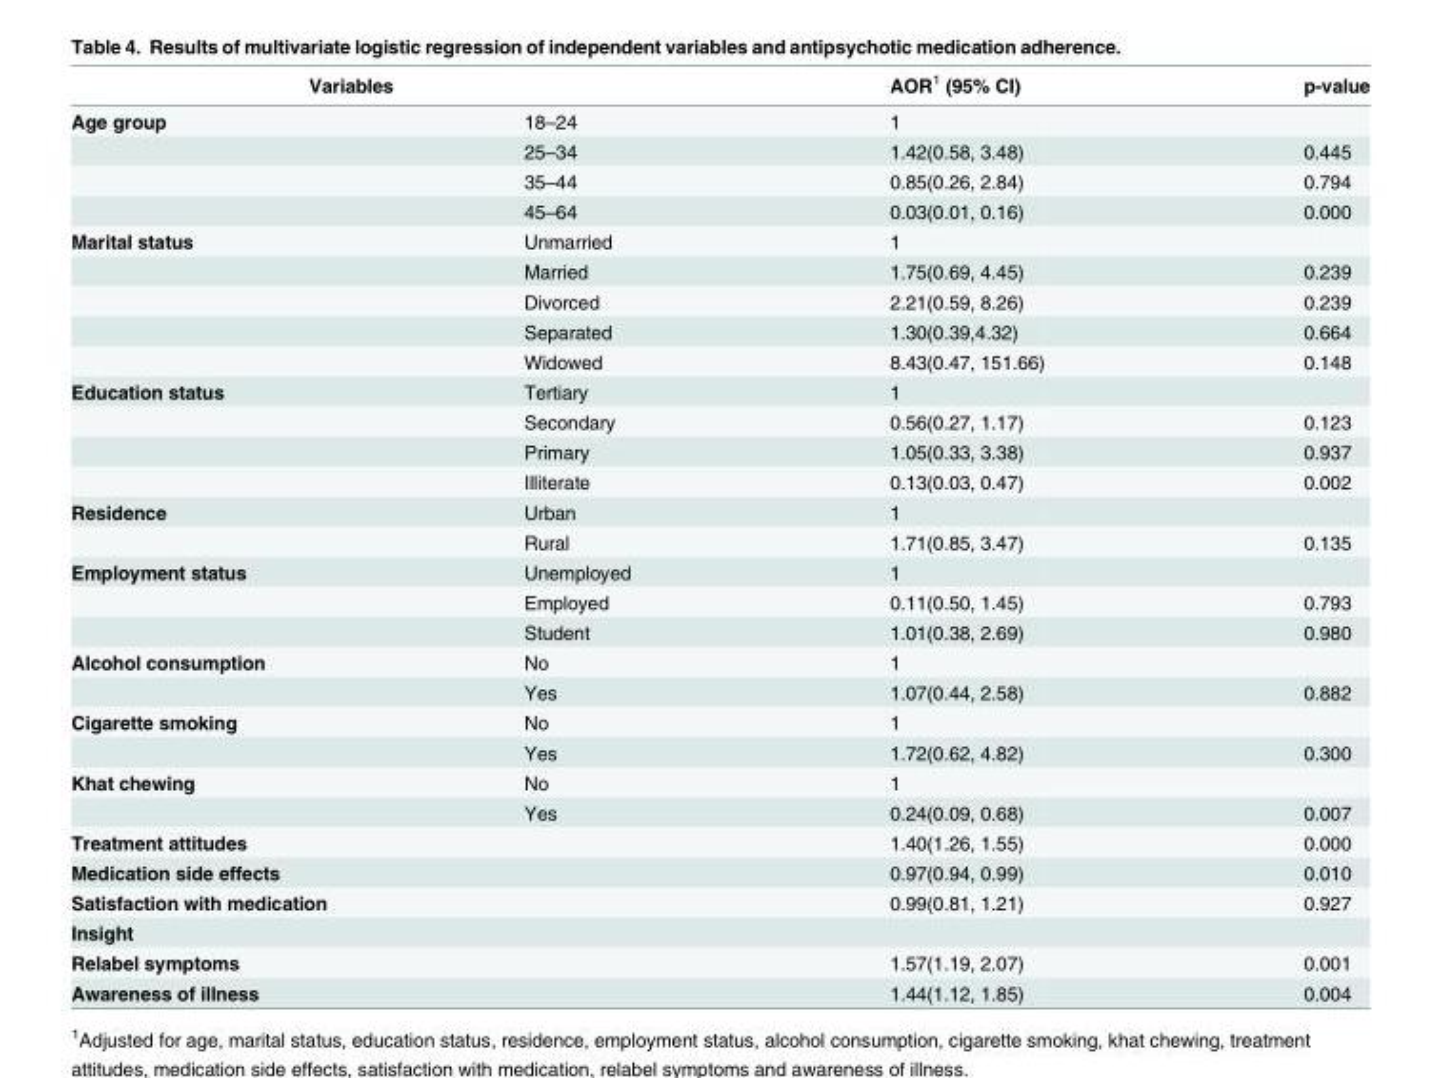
<table><thead><tr><td colspan="2">Variables</td><td rowspan="2">AOR<sup>1</sup> (95% CI) 1</td><td rowspan="2">p-value</td></tr><tr><td>Age group</td><td>18–24</td></tr></thead><tbody><tr><td></td><td>25–34</td><td>1.42(0.58, 3.48)</td><td>0.445</td></tr><tr><td></td><td>35–44</td><td>0.85(0.26, 2.84)</td><td>0.794</td></tr><tr><td></td><td>45–64</td><td>0.03(0.01, 0.16)</td><td>0.000</td></tr><tr><td rowspan="5">Marital status</td><td>Unmarried</td><td>1</td><td></td></tr><tr><td>Married</td><td>1.75(0.69, 4.45)</td><td>0.239</td></tr><tr><td>Divorced</td><td>2.21(0.59, 8.26)</td><td>0.239</td></tr><tr><td>Separated</td><td>1.30(0.39,4.32)</td><td>0.664</td></tr><tr><td>Widowed</td><td>8.43(0.47, 151.66)</td><td>0.148</td></tr><tr><td rowspan="4">Education status</td><td>Tertiary</td><td>1</td><td></td></tr><tr><td>Secondary</td><td>0.56(0.27, 1.17)</td><td>0.123</td></tr><tr><td>Primary</td><td>1.05(0.33, 3.38)</td><td>0.937</td></tr><tr><td>Illiterate</td><td>0.13(0.03, 0.47)</td><td>0.002</td></tr><tr><td rowspan="2">Residence</td><td>Urban</td><td>1</td><td></td></tr><tr><td>Rural</td><td>1.71(0.85, 3.47)</td><td>0.135</td></tr><tr><td rowspan="3">Employment status</td><td>Unemployed</td><td>1</td><td></td></tr><tr><td>Employed</td><td>0.11(0.50, 1.45)</td><td>0.793</td></tr><tr><td>Student</td><td>1.01(0.38, 2.69)</td><td>0.980</td></tr><tr><td rowspan="2">Alcohol consumption</td><td>No</td><td>1</td><td></td></tr><tr><td>Yes</td><td>1.07(0.44, 2.58)</td><td>0.882</td></tr><tr><td rowspan="2">Cigarette smoking</td><td>No</td><td>1</td><td></td></tr><tr><td>Yes</td><td>1.72(0.62, 4.82)</td><td>0.300</td></tr><tr><td rowspan="2">Khat chewing</td><td>No</td><td>1</td><td></td></tr><tr><td>Yes</td><td>0.24(0.09, 0.68)</td><td>0.007</td></tr><tr><td colspan="2">Treatment attitudes</td><td>1.40(1.26, 1.55)</td><td>0.000</td></tr><tr><td colspan="2">Medication side effects</td><td>0.97(0.94, 0.99)</td><td>0.010</td></tr><tr><td colspan="2">Satisfaction with medication</td><td>0.99(0.81, 1.21)</td><td>0.927</td></tr><tr><td colspan="4">Insight</td></tr><tr><td colspan="2">Relabel symptoms</td><td>1.57(1.19, 2.07)</td><td>0.001</td></tr><tr><td colspan="2">Awareness of illness</td><td>1.44(1.12, 1.85)</td><td>0.004</td></tr></tbody></table>